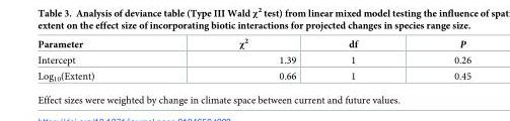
<table><thead><tr><td>Parameter</td><td>χ<sup>2</sup></td><td>df</td><td>P</td></tr></thead><tbody><tr><td>Intercept</td><td>1.39</td><td>1</td><td>0.26</td></tr><tr><td>Log<sub>10</sub>(Extent)</td><td>0.66</td><td>1</td><td>0.45</td></tr></tbody></table>